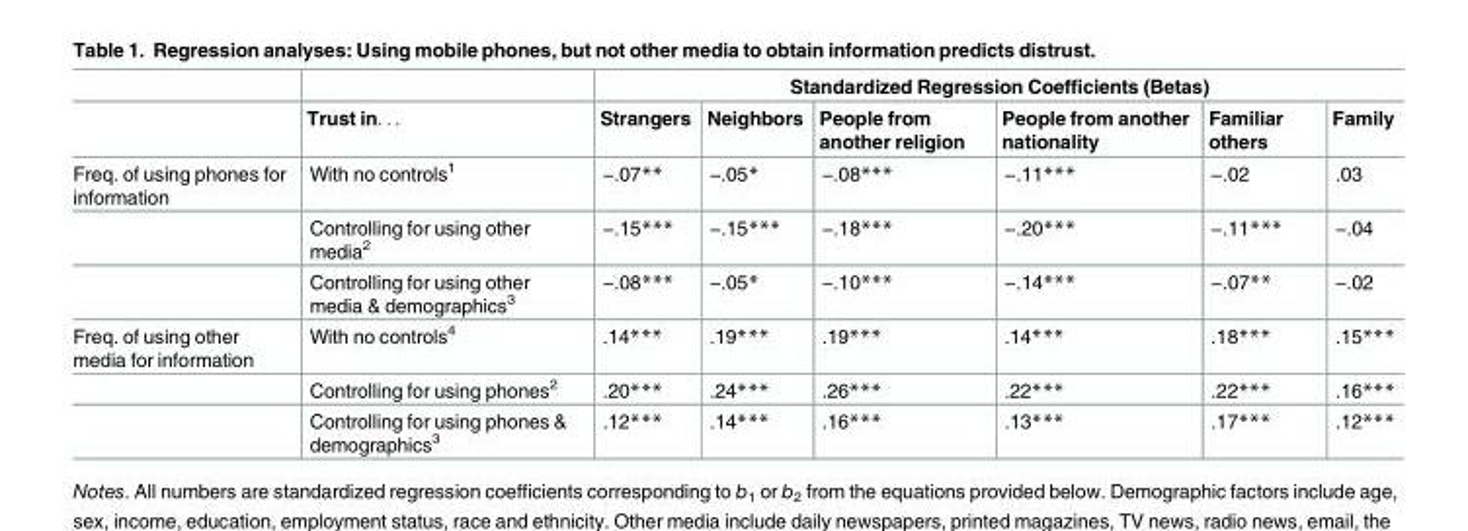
<table><thead><tr><td rowspan="2"></td><td rowspan="2">Trust in. . .</td><td colspan="6">Standardized Regression Coefficients (Betas)</td></tr><tr><td>Strangers</td><td>Neighbors</td><td>People from another religion</td><td>People from another nationality</td><td>Familiar others</td><td>Family</td></tr></thead><tbody><tr><td rowspan="3">Freq. of using phones for information</td><td>With no controls<sup>1</sup></td><td>−.07**</td><td>−.05*</td><td>−.08***</td><td>−.11***</td><td>−.02</td><td>.03</td></tr><tr><td>Controlling for using other media<sup>2</sup></td><td>−.15***</td><td>−.15***</td><td>−.18***</td><td>−.20***</td><td>−.11***</td><td>−.04</td></tr><tr><td>Controlling for using other media &amp; demographics<sup>3</sup></td><td>−.08***</td><td>−.05*</td><td>−.10***</td><td>−.14***</td><td>−.07**</td><td>−.02</td></tr><tr><td rowspan="3">Freq. of using other media for information</td><td>With no controls<sup>4</sup></td><td>.14***</td><td>.19***</td><td>.19***</td><td>.14***</td><td>.18***</td><td>.15***</td></tr><tr><td>Controlling for using phones<sup>2</sup></td><td>.20***</td><td>.24***</td><td>.26***</td><td>.22***</td><td>.22***</td><td>.16***</td></tr><tr><td>Controlling for using phones &amp; demographics<sup>3</sup></td><td>.12***</td><td>.14***</td><td>.16***</td><td>.13***</td><td>.17***</td><td>.12***</td></tr></tbody></table>